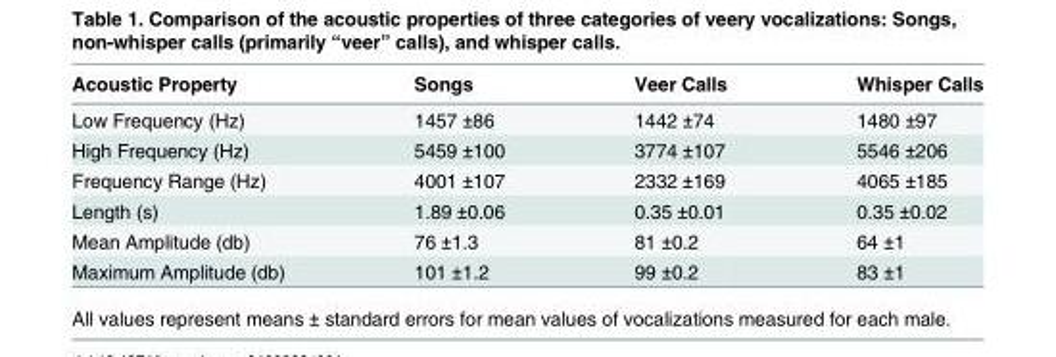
<table><thead><tr><td>Acoustic Property</td><td>Songs</td><td>Veer Calls</td><td>Whisper Calls</td></tr></thead><tbody><tr><td>Low Frequency (Hz)</td><td>1457 ±86</td><td>1442 ±74</td><td>1480 ±97</td></tr><tr><td>High Frequency (Hz)</td><td>5459 ±100</td><td>3774 ±107</td><td>5546 ±206</td></tr><tr><td>Frequency Range (Hz)</td><td>4001 ±107</td><td>2332 ±169</td><td>4065 ±185</td></tr><tr><td>Length (s)</td><td>1.89 ±0.06</td><td>0.35 ±0.01</td><td>0.35 ±0.02</td></tr><tr><td>Mean Amplitude (db)</td><td>76 ±1.3</td><td>81 ±0.2</td><td>64 ±1</td></tr><tr><td>Maximum Amplitude (db)</td><td>101 ±1.2</td><td>99 ±0.2</td><td>83 ±1</td></tr></tbody></table>